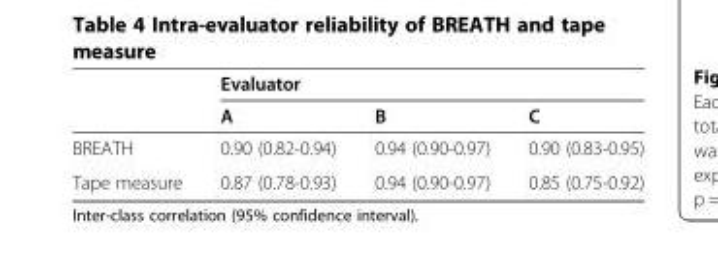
<table><thead><tr><td rowspan="2"></td><td colspan="3">Evaluator</td></tr><tr><td>A</td><td>B</td><td>C</td></tr></thead><tbody><tr><td>BREATH</td><td>0.90 (0.82-0.94)</td><td>0.94 (0.90-0.97)</td><td>0.90 (0.83-0.95)</td></tr><tr><td>Tape measure</td><td>0.87 (0.78-0.93)</td><td>0.94 (0.90-0.97)</td><td>0.85 (0.75-0.92)</td></tr></tbody></table>